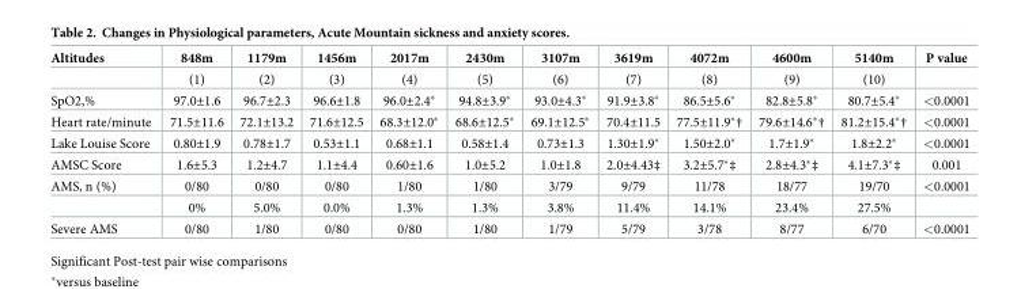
<table><thead><tr><td>Altitudes</td><td>848m</td><td>1179m</td><td>1456m</td><td>2017m</td><td>2430m</td><td>3107m</td><td>3619m</td><td>4072m</td><td>4600m</td><td>5140m</td><td>P value</td></tr></thead><tbody><tr><td></td><td>(1)</td><td>(2)</td><td>(3)</td><td>(4)</td><td>(5)</td><td>(6)</td><td>(7)</td><td>(8)</td><td>(9)</td><td>(10)</td><td></td></tr><tr><td>SpO2,%</td><td>97.0±1.6</td><td>96.7±2.3</td><td>96.6±1.8</td><td>96.0±2.4*</td><td>94.8±3.9*</td><td>93.0±4.3*</td><td>91.9±3.8*</td><td>86.5±5.6*</td><td>82.8±5.8*</td><td>80.7±5.4*</td><td>&lt;0.0001</td></tr><tr><td>Heart rate/minute</td><td>71.5±11.6</td><td>72.1±13.2</td><td>71.6±12.5</td><td>68.3±12.0*</td><td>68.6±12.5*</td><td>69.1±12.5*</td><td>70.4±11.5</td><td>77.5±11.9*†</td><td>79.6±14.6*†</td><td>81.2±15.4*†</td><td>&lt;0.0001</td></tr><tr><td>Lake Louise Score</td><td>0.80±1.9</td><td>0.78±1.7</td><td>0.53±1.1</td><td>0.68±1.1</td><td>0.58±1.4</td><td>0.73±1.3</td><td>1.30±1.9*</td><td>1.50±2.0*</td><td>1.7±1.9*</td><td>1.8±2.2*</td><td>&lt;0.0001</td></tr><tr><td>AMSC Score</td><td>1.6±5.3</td><td>1.2±4.7</td><td>1.1±4.4</td><td>0.60±1.6</td><td>1.0±5.2</td><td>1.0±1.8</td><td>2.0±4.43‡</td><td>3.2±5.7�‡</td><td>2.8±4.3�‡</td><td>4.1±7.3�‡</td><td>0.001</td></tr><tr><td rowspan="2">AMS, n (%)</td><td>0/80</td><td>0/80</td><td>0/80</td><td>1/80</td><td>1/80</td><td>3/79</td><td>9/79</td><td>11/78</td><td>18/77</td><td>19/70</td><td>&lt;0.0001</td></tr><tr><td>0%</td><td>5.0%</td><td>0.0%</td><td>1.3%</td><td>1.3%</td><td>3.8%</td><td>11.4%</td><td>14.1%</td><td>23.4%</td><td>27.5%</td><td></td></tr><tr><td>Severe AMS</td><td>0/80</td><td>1/80</td><td>0/80</td><td>0/80</td><td>1/80</td><td>1/79</td><td>5/79</td><td>3/78</td><td>8/77</td><td>6/70</td><td>&lt;0.0001</td></tr></tbody></table>